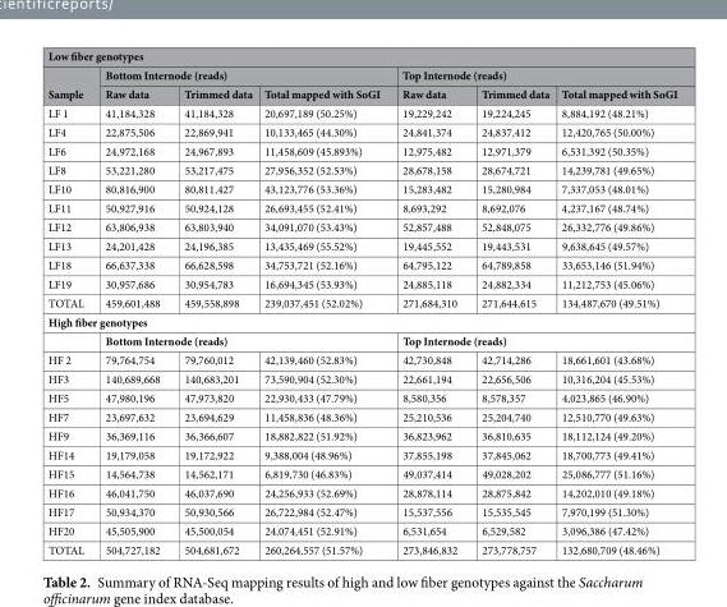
<table><thead><tr><td colspan="7">Low fiber genotypes</td></tr><tr><td rowspan="2">Sample</td><td colspan="3">Bottom Internode (reads)</td><td colspan="3">Top Internode (reads)</td></tr><tr><td>Raw data</td><td>Trimmed data</td><td>Total mapped with SoGI</td><td>Raw data</td><td>Trimmed data</td><td>Total mapped with SoGI</td></tr></thead><tbody><tr><td>LF 1</td><td>41,184,328</td><td>41,184,328</td><td>20,697,189 (50.25%)</td><td>19,229,242</td><td>19,224,245</td><td>8,884,192 (48.21%)</td></tr><tr><td>LF4</td><td>22,875,506</td><td>22,869,941</td><td>10,133,465 (44.30%)</td><td>24,841,374</td><td>24,837,412</td><td>12,420,765 (50.00%)</td></tr><tr><td>LF6</td><td>24,972,168</td><td>24,967,893</td><td>11,458,609 (45.893%)</td><td>12,975,482</td><td>12,971,379</td><td>6,531,392 (50.35%)</td></tr><tr><td>LF8</td><td>53,221,280</td><td>53,217,475</td><td>27,956,352 (52.53%)</td><td>28,678,158</td><td>28,674,721</td><td>14,239,781 (49.65%)</td></tr><tr><td>LF10</td><td>80,816,900</td><td>80,811,427</td><td>43,123,776 (53.36%)</td><td>15,283,482</td><td>15,280,984</td><td>7,337,053 (48.01%)</td></tr><tr><td>LF11</td><td>50,927,916</td><td>50,924,128</td><td>26,693,455 (52.41%)</td><td>8,693,292</td><td>8,692,076</td><td>4,237,167 (48.74%)</td></tr><tr><td>LF12</td><td>63,806,938</td><td>63,803,940</td><td>34,091,070 (53.43%)</td><td>52,857,488</td><td>52,848,075</td><td>26,332,776 (49.86%)</td></tr><tr><td>LF13</td><td>24,201,428</td><td>24,196,385</td><td>13,435,469 (55.52%)</td><td>19,445,552</td><td>19,443,531</td><td>9,638,645 (49.57%)</td></tr><tr><td>LF18</td><td>66,637,338</td><td>66,628,598</td><td>34,753,721 (52.16%)</td><td>64,795,122</td><td>64,789,858</td><td>33,653,146 (51.94%)</td></tr><tr><td>LF19</td><td>30,957,686</td><td>30,954,783</td><td>16,694,345 (53.93%)</td><td>24,885,118</td><td>24,882,334</td><td>11,212,753 (45.06%)</td></tr><tr><td>TOTAL</td><td>459,601,488</td><td>459,558,898</td><td>239,037,451 (52.02%)</td><td>271,684,310</td><td>271,644,615</td><td>134,487,670 (49.51%)</td></tr><tr><td colspan="7">High fiber genotypes</td></tr><tr><td></td><td colspan="3">Bottom Internode (reads)</td><td colspan="3">Top Internode (reads)</td></tr><tr><td>HF 2</td><td>79,764,754</td><td>79,760,012</td><td>42,139,460 (52.83%)</td><td>42,730,848</td><td>42,714,286</td><td>18,661,601 (43.68%)</td></tr><tr><td>HF3</td><td>140,689,668</td><td>140,683,201</td><td>73,590,904 (52.30%)</td><td>22,661,194</td><td>22,656,506</td><td>10,316,204 (45.53%)</td></tr><tr><td>HF5</td><td>47,980,196</td><td>47,973,820</td><td>22,930,433 (47.79%)</td><td>8,580,356</td><td>8,578,357</td><td>4,023,865 (46.90%)</td></tr><tr><td>HF7</td><td>23,697,632</td><td>23,694,629</td><td>11,458,836 (48.36%)</td><td>25,210,536</td><td>25,204,740</td><td>12,510,770 (49.63%)</td></tr><tr><td>HF9</td><td>36,369,116</td><td>36,366,607</td><td>18,882,822 (51.92%)</td><td>36,823,962</td><td>36,810,635</td><td>18,112,124 (49.20%)</td></tr><tr><td>HF14</td><td>19,179,058</td><td>19,172,922</td><td>9,388,004 (48.96%)</td><td>37,855,198</td><td>37,845,062</td><td>18,700,773 (49.41%)</td></tr><tr><td>HF15</td><td>14,564,738</td><td>14,562,171</td><td>6,819,730 (46.83%)</td><td>49,037,414</td><td>49,028,202</td><td>25,086,777 (51.16%)</td></tr><tr><td>HF16</td><td>46,041,750</td><td>46,037,690</td><td>24,256,933 (52.69%)</td><td>28,878,114</td><td>28,875,842</td><td>14,202,010 (49.18%)</td></tr><tr><td>HF17</td><td>50,934,370</td><td>50,930,566</td><td>26,722,984 (52.47%)</td><td>15,537,556</td><td>15,535,545</td><td>7,970,199 (51.30%)</td></tr><tr><td>HF20</td><td>45,505,900</td><td>45,500,054</td><td>24,074,451 (52.91%)</td><td>6,531,654</td><td>6,529,582</td><td>3,096,386 (47.42%)</td></tr><tr><td>TOTAL</td><td>504,727,182</td><td>504,681,672</td><td>260,264,557 (51.57%)</td><td>273,846,832</td><td>273,778,757</td><td>132,680,709 (48.46%)</td></tr></tbody></table>